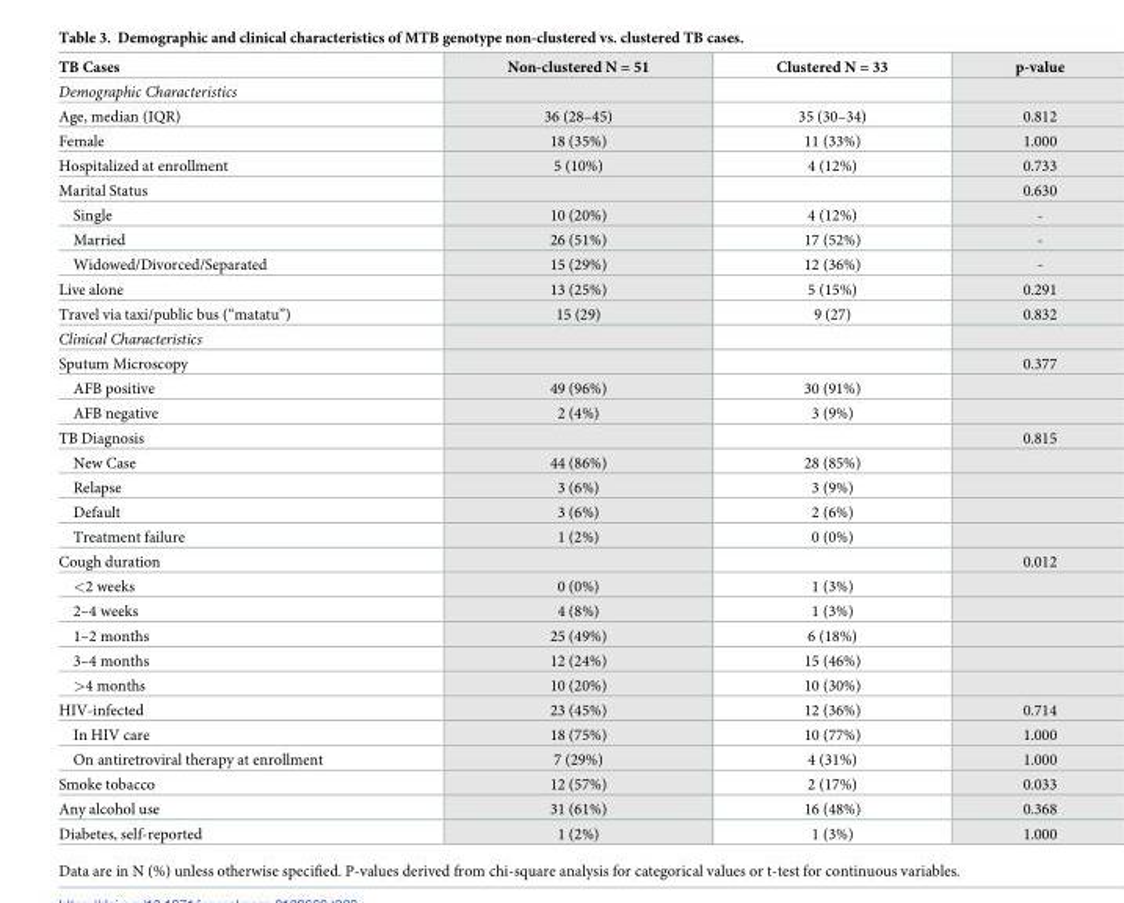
<table><thead><tr><td>TB Cases</td><td>Non-clustered N = 51</td><td>Clustered N = 33</td><td>p-value</td></tr></thead><tbody><tr><td colspan="4">Demographic Characteristics</td></tr><tr><td>Age, median (IQR)</td><td>36 (28–45)</td><td>35 (30–34)</td><td>0.812</td></tr><tr><td>Female</td><td>18 (35%)</td><td>11 (33%)</td><td>1.000</td></tr><tr><td>Hospitalized at enrollment</td><td>5 (10%)</td><td>4 (12%)</td><td>0.733</td></tr><tr><td>Marital Status</td><td></td><td></td><td>0.630</td></tr><tr><td>Single</td><td>10 (20%)</td><td>4 (12%)</td><td>-</td></tr><tr><td>Married</td><td>26 (51%)</td><td>17 (52%)</td><td>-</td></tr><tr><td>Widowed/Divorced/Separated</td><td>15 (29%)</td><td>12 (36%)</td><td>-</td></tr><tr><td>Live alone</td><td>13 (25%)</td><td>5 (15%)</td><td>0.291</td></tr><tr><td>Travel via taxi/public bus (“matatu”)</td><td>15 (29)</td><td>9 (27)</td><td>0.832</td></tr><tr><td colspan="4">Clinical Characteristics</td></tr><tr><td>Sputum Microscopy</td><td></td><td></td><td>0.377</td></tr><tr><td>AFB positive</td><td>49 (96%)</td><td>30 (91%)</td><td></td></tr><tr><td>AFB negative</td><td>2 (4%)</td><td>3 (9%)</td><td></td></tr><tr><td>TB Diagnosis</td><td></td><td></td><td>0.815</td></tr><tr><td>New Case</td><td>44 (86%)</td><td>28 (85%)</td><td></td></tr><tr><td>Relapse</td><td>3 (6%)</td><td>3 (9%)</td><td></td></tr><tr><td>Default</td><td>3 (6%)</td><td>2 (6%)</td><td></td></tr><tr><td>Treatment failure</td><td>1 (2%)</td><td>0 (0%)</td><td></td></tr><tr><td>Cough duration</td><td></td><td></td><td>0.012</td></tr><tr><td>&lt;2 weeks</td><td>0 (0%)</td><td>1 (3%)</td><td></td></tr><tr><td>2–4 weeks</td><td>4 (8%)</td><td>1 (3%)</td><td></td></tr><tr><td>1–2 months</td><td>25 (49%)</td><td>6 (18%)</td><td></td></tr><tr><td>3–4 months</td><td>12 (24%)</td><td>15 (46%)</td><td></td></tr><tr><td>&gt;4 months</td><td>10 (20%)</td><td>10 (30%)</td><td></td></tr><tr><td>HIV-infected</td><td>23 (45%)</td><td>12 (36%)</td><td>0.714</td></tr><tr><td>In HIV care</td><td>18 (75%)</td><td>10 (77%)</td><td>1.000</td></tr><tr><td>On antiretroviral therapy at enrollment</td><td>7 (29%)</td><td>4 (31%)</td><td>1.000</td></tr><tr><td>Smoke tobacco</td><td>12 (57%)</td><td>2 (17%)</td><td>0.033</td></tr><tr><td>Any alcohol use</td><td>31 (61%)</td><td>16 (48%)</td><td>0.368</td></tr><tr><td>Diabetes, self-reported</td><td>1 (2%)</td><td>1 (3%)</td><td>1.000</td></tr></tbody></table>